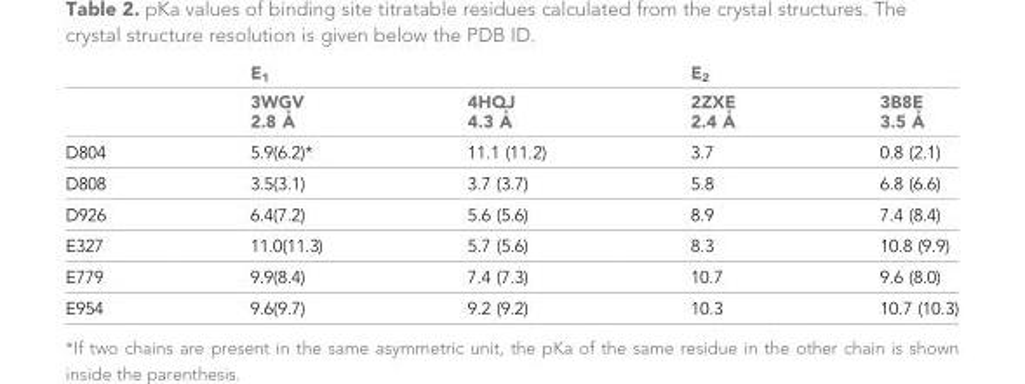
<table><thead><tr><td rowspan="2"></td><td colspan="2">E<sub>1</sub></td><td colspan="2">E<sub>2</sub></td></tr><tr><td>3WGV 2.8 A˚</td><td>4HQJ 4.3 A˚</td><td>2ZXE 2.4 A˚</td><td>3B8E 3.5 A˚</td></tr></thead><tbody><tr><td>D804</td><td>5.9(6.2)*</td><td>11.1 (11.2)</td><td>3.7</td><td>0.8 (2.1)</td></tr><tr><td>D808</td><td>3.5(3.1)</td><td>3.7 (3.7)</td><td>5.8</td><td>6.8 (6.6)</td></tr><tr><td>D926</td><td>6.4(7.2)</td><td>5.6 (5.6)</td><td>8.9</td><td>7.4 (8.4)</td></tr><tr><td>E327</td><td>11.0(11.3)</td><td>5.7 (5.6)</td><td>8.3</td><td>10.8 (9.9)</td></tr><tr><td>E779</td><td>9.9(8.4)</td><td>7.4 (7.3)</td><td>10.7</td><td>9.6 (8.0)</td></tr><tr><td>E954</td><td>9.6(9.7)</td><td>9.2 (9.2)</td><td>10.3</td><td>10.7 (10.3)</td></tr></tbody></table>